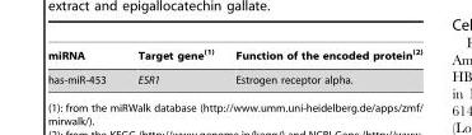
<table><thead><tr><td>miRNA</td><td>Target gene(1)</td><td>Function of the encoded protein(2)</td></tr></thead><tbody><tr><td>has-miR-453</td><td>ESR1</td><td>Estrogen receptor alpha.</td></tr></tbody></table>